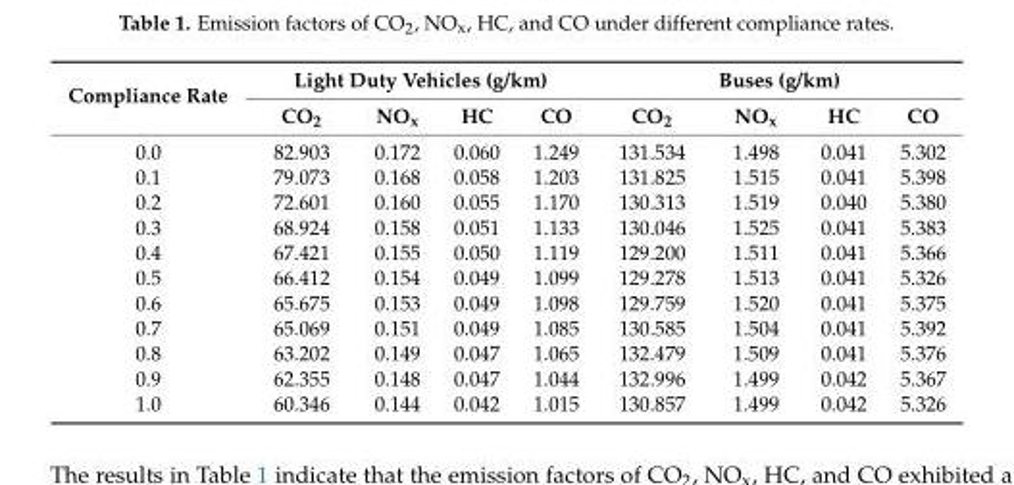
<table><thead><tr><td rowspan="2">Compliance Rate</td><td colspan="4">Light Duty Vehicles (g/km)</td><td colspan="4">Buses (g/km)</td></tr><tr><td>CO<sub>2</sub></td><td>NO<sub>x</sub></td><td>HC</td><td>CO</td><td>CO<sub>2</sub></td><td>NO<sub>x</sub></td><td>HC</td><td>CO</td></tr></thead><tbody><tr><td>0.0</td><td>82.903</td><td>0.172</td><td>0.060</td><td>1.249</td><td>131.534</td><td>1.498</td><td>0.041</td><td>5.302</td></tr><tr><td>0.1</td><td>79.073</td><td>0.168</td><td>0.058</td><td>1.203</td><td>131.825</td><td>1.515</td><td>0.041</td><td>5.398</td></tr><tr><td>0.2</td><td>72.601</td><td>0.160</td><td>0.055</td><td>1.170</td><td>130.313</td><td>1.519</td><td>0.040</td><td>5.380</td></tr><tr><td>0.3</td><td>68.924</td><td>0.158</td><td>0.051</td><td>1.133</td><td>130.046</td><td>1.525</td><td>0.041</td><td>5.383</td></tr><tr><td>0.4</td><td>67.421</td><td>0.155</td><td>0.050</td><td>1.119</td><td>129.200</td><td>1.511</td><td>0.041</td><td>5.366</td></tr><tr><td>0.5</td><td>66.412</td><td>0.154</td><td>0.049</td><td>1.099</td><td>129.278</td><td>1.513</td><td>0.041</td><td>5.326</td></tr><tr><td>0.6</td><td>65.675</td><td>0.153</td><td>0.049</td><td>1.098</td><td>129.759</td><td>1.520</td><td>0.041</td><td>5.375</td></tr><tr><td>0.7</td><td>65.069</td><td>0.151</td><td>0.049</td><td>1.085</td><td>130.585</td><td>1.504</td><td>0.041</td><td>5.392</td></tr><tr><td>0.8</td><td>63.202</td><td>0.149</td><td>0.047</td><td>1.065</td><td>132.479</td><td>1.509</td><td>0.041</td><td>5.376</td></tr><tr><td>0.9</td><td>62.355</td><td>0.148</td><td>0.047</td><td>1.044</td><td>132.996</td><td>1.499</td><td>0.042</td><td>5.367</td></tr><tr><td>1.0</td><td>60.346</td><td>0.144</td><td>0.042</td><td>1.015</td><td>130.857</td><td>1.499</td><td>0.042</td><td>5.326</td></tr></tbody></table>